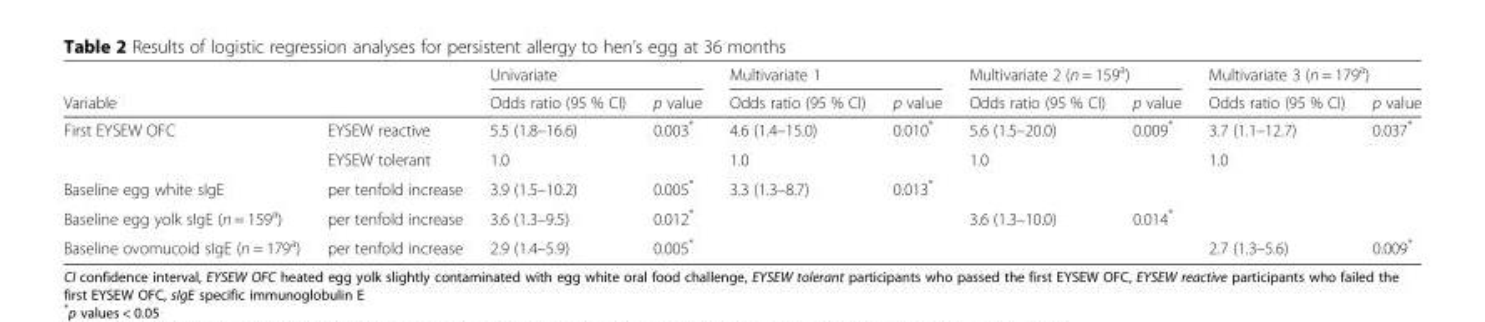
<table><thead><tr><td rowspan="2">Variable</td><td rowspan="2"></td><td colspan="2">Univariate</td><td colspan="2">Multivariate 1</td><td colspan="2">Multivariate 2 (n = 159<sup>a</sup>)</td><td colspan="2">Multivariate 3 (n = 179<sup>a</sup>)</td></tr><tr><td>Odds ratio (95 % CI)</td><td>p value</td><td>Odds ratio (95 % CI)</td><td>p value</td><td>Odds ratio (95 % CI)</td><td>p value</td><td>Odds ratio (95 % CI)</td><td>p value</td></tr></thead><tbody><tr><td rowspan="2">First EYSEW OFC</td><td>EYSEW reactive</td><td>5.5 (1.8–16.6)</td><td>0.003*</td><td>4.6 (1.4–15.0)</td><td>0.010*</td><td>5.6 (1.5–20.0)</td><td>0.009*</td><td>3.7 (1.1–12.7)</td><td>0.037*</td></tr><tr><td>EYSEW tolerant</td><td>1.0</td><td></td><td>1.0</td><td></td><td>1.0</td><td></td><td>1.0</td><td></td></tr><tr><td>Baseline egg white sIgE</td><td>per tenfold increase</td><td>3.9 (1.5–10.2)</td><td>0.005*</td><td>3.3 (1.3–8.7)</td><td>0.013*</td><td></td><td></td><td></td><td></td></tr><tr><td>Baseline egg yolk sIgE (n = 159<sup>a</sup>)</td><td>per tenfold increase</td><td>3.6 (1.3–9.5)</td><td>0.012*</td><td></td><td></td><td>3.6 (1.3–10.0)</td><td>0.014*</td><td></td><td></td></tr><tr><td>Baseline ovomucoid sIgE (n = 179<sup>a</sup>)</td><td>per tenfold increase</td><td>2.9 (1.4–5.9)</td><td>0.005*</td><td></td><td></td><td></td><td></td><td>2.7 (1.3–5.6)</td><td>0.009*</td></tr></tbody></table>